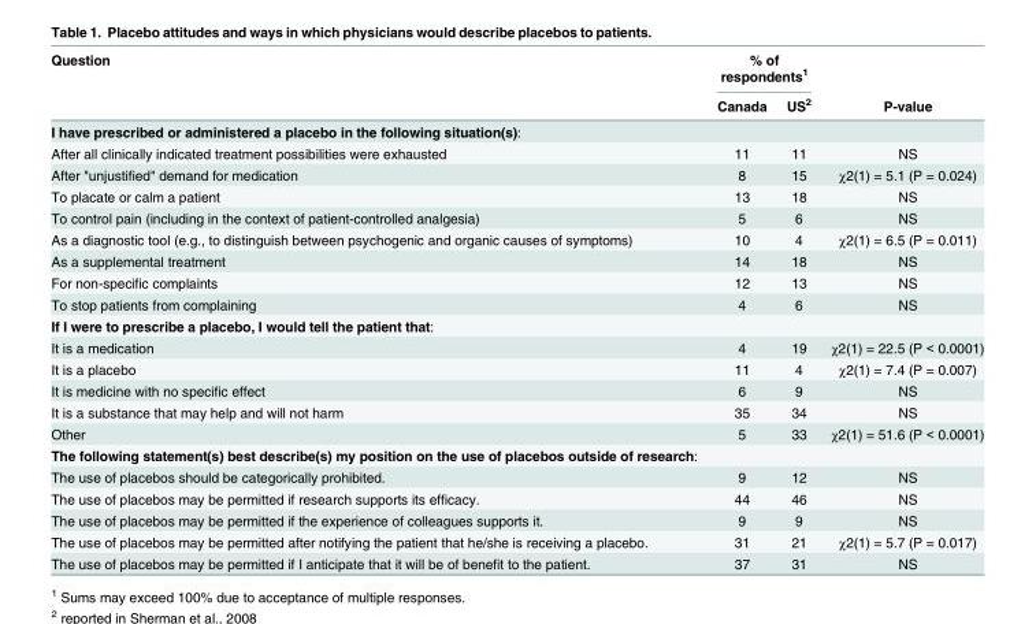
<table><thead><tr><td rowspan="2">Question</td><td colspan="2">% of respondents<sup>1</sup></td><td rowspan="2">P-value</td></tr><tr><td>Canada</td><td>US<sup>2</sup></td></tr></thead><tbody><tr><td colspan="4">I have prescribed or administered a placebo in the following situation(s):</td></tr><tr><td>After all clinically indicated treatment possibilities were exhausted</td><td>11</td><td>11</td><td>NS</td></tr><tr><td>After &quot;unjustified&quot; demand for medication</td><td>8</td><td>15</td><td>χ2(1) = 5.1 (P = 0.024)</td></tr><tr><td>To placate or calm a patient</td><td>13</td><td>18</td><td>NS</td></tr><tr><td>To control pain (including in the context of patient-controlled analgesia)</td><td>5</td><td>6</td><td>NS</td></tr><tr><td>As a diagnostic tool (e.g., to distinguish between psychogenic and organic causes of symptoms)</td><td>10</td><td>4</td><td>χ2(1) = 6.5 (P = 0.011)</td></tr><tr><td>As a supplemental treatment</td><td>14</td><td>18</td><td>NS</td></tr><tr><td>For non-specific complaints</td><td>12</td><td>13</td><td>NS</td></tr><tr><td>To stop patients from complaining</td><td>4</td><td>6</td><td>NS</td></tr><tr><td colspan="4">If I were to prescribe a placebo, I would tell the patient that:</td></tr><tr><td>It is a medication</td><td>4</td><td>19</td><td>χ2(1) = 22.5 (P &lt; 0.0001)</td></tr><tr><td>It is a placebo</td><td>11</td><td>4</td><td>χ2(1) = 7.4 (P = 0.007)</td></tr><tr><td>It is medicine with no specific effect</td><td>6</td><td>9</td><td>NS</td></tr><tr><td>It is a substance that may help and will not harm</td><td>35</td><td>34</td><td>NS</td></tr><tr><td>Other</td><td>5</td><td>33</td><td>χ2(1) = 51.6 (P &lt; 0.0001)</td></tr><tr><td colspan="4">The following statement(s) best describe(s) my position on the use of placebos outside of research:</td></tr><tr><td>The use of placebos should be categorically prohibited.</td><td>9</td><td>12</td><td>NS</td></tr><tr><td>The use of placebos may be permitted if research supports its efficacy.</td><td>44</td><td>46</td><td>NS</td></tr><tr><td>The use of placebos may be permitted if the experience of colleagues supports it.</td><td>9</td><td>9</td><td>NS</td></tr><tr><td>The use of placebos may be permitted after notifying the patient that he/she is receiving a placebo.</td><td>31</td><td>21</td><td>χ2(1) = 5.7 (P = 0.017)</td></tr><tr><td>The use of placebos may be permitted if I anticipate that it will be of benefit to the patient.</td><td>37</td><td>31</td><td>NS</td></tr></tbody></table>